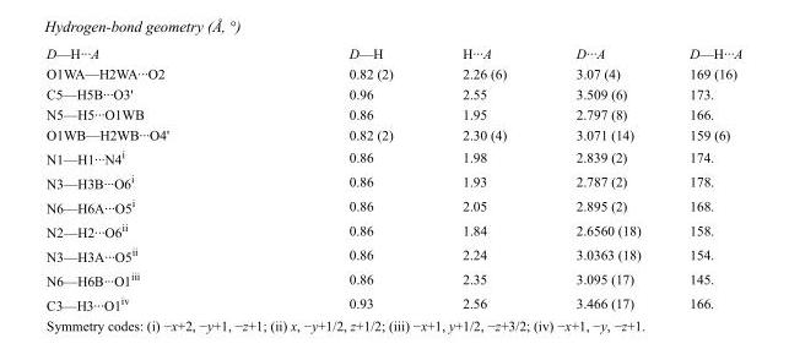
<table><tbody><tr><td>D—H···A</td><td>D—H</td><td>H···A</td><td>D···A</td><td>D—H···A</td></tr><tr><td>O1WA—H2WA···O2</td><td>0.82 (2)</td><td>2.26 (6)</td><td>3.07 (4)</td><td>169 (16)</td></tr><tr><td>C5—H5B···O3&#x27;</td><td>0.96</td><td>2.55</td><td>3.509 (6)</td><td>173.</td></tr><tr><td>N5—H5···O1WB</td><td>0.86</td><td>1.95</td><td>2.797 (8)</td><td>166.</td></tr><tr><td>O1WB—H2WB···O4&#x27;</td><td>0.82 (2)</td><td>2.30 (4)</td><td>3.071 (14)</td><td>159 (6)</td></tr><tr><td>N1—H1···N4<sup>i</sup></td><td>0.86</td><td>1.98</td><td>2.839 (2)</td><td>174.</td></tr><tr><td>N3—H3B···O6<sup>i</sup></td><td>0.86</td><td>1.93</td><td>2.787 (2)</td><td>178.</td></tr><tr><td>N6—H6A···O5<sup>i</sup></td><td>0.86</td><td>2.05</td><td>2.895 (2)</td><td>168.</td></tr><tr><td>N2—H2···O6<sup>ii</sup></td><td>0.86</td><td>1.84</td><td>2.6560 (18)</td><td>158.</td></tr><tr><td>N3—H3A···O5<sup>ii</sup></td><td>0.86</td><td>2.24</td><td>3.0363 (18)</td><td>154.</td></tr><tr><td>N6—H6B···O1<sup>iii</sup></td><td>0.86</td><td>2.35</td><td>3.095 (17)</td><td>145.</td></tr><tr><td>C3—H3···O1<sup>iv</sup></td><td>0.93</td><td>2.56</td><td>3.466 (17)</td><td>166.</td></tr></tbody></table>